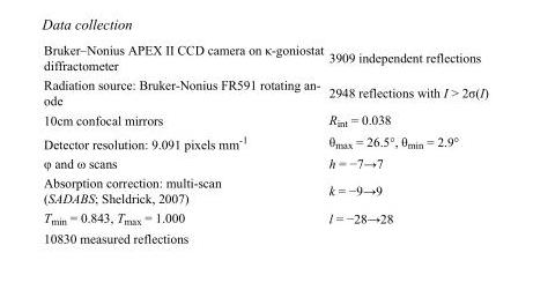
<table><tbody><tr><td>Bruker–Nonius APEX II CCD camera on κ-goniostat diffractometer</td><td>3909 independent reflections</td></tr><tr><td>Radiation source: Bruker-Nonius FR591 rotating an- ode</td><td>2948 reflections with I &gt; 2σ(I)</td></tr><tr><td>10cm confocal mirrors</td><td>R<sub>int</sub> = 0.038</td></tr><tr><td>Detector resolution: 9.091 pixels mm<sup>-1</sup></td><td>θ<sub>max</sub> = 26.5°, θ<sub>min</sub> = 2.9°</td></tr><tr><td>φ and ω scans</td><td>h = −7→7</td></tr><tr><td>Absorption correction: multi-scan (SADABS; Sheldrick, 2007)</td><td>k = −9→9</td></tr><tr><td>T<sub>min</sub> = 0.843, T<sub>max</sub> = 1.000</td><td>l = −28→28</td></tr><tr><td>10830 measured reflections</td><td></td></tr></tbody></table>